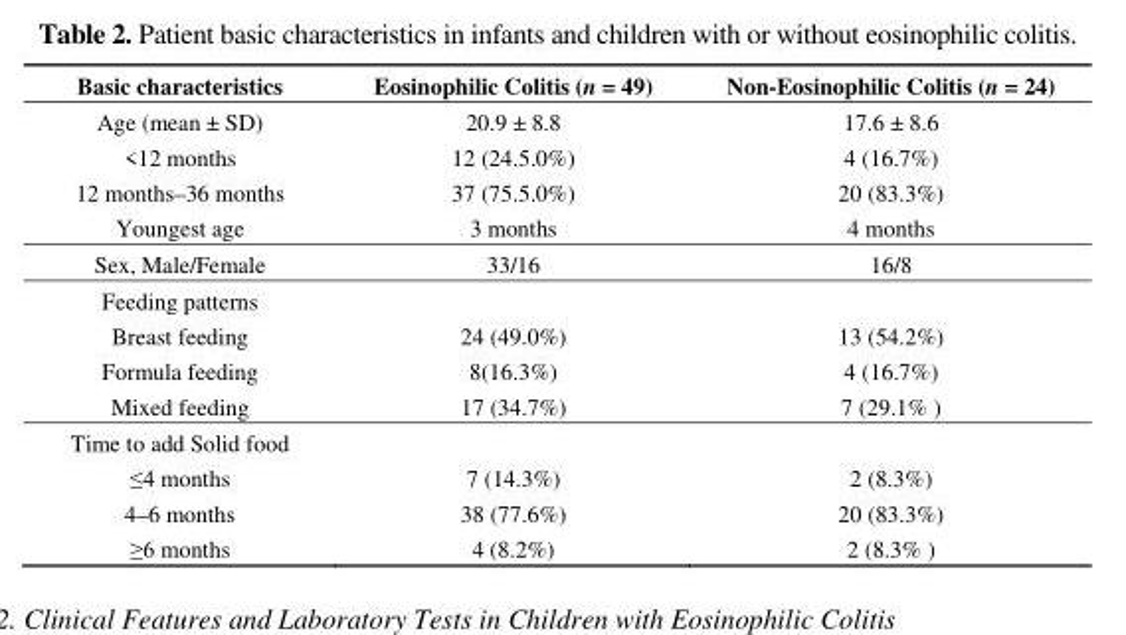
<table><thead><tr><td>Basic characteristics</td><td>Eosinophilic Colitis (n = 49)</td><td>Non-Eosinophilic Colitis (n = 24)</td></tr></thead><tbody><tr><td>Age (mean ± SD)</td><td>20.9 ± 8.8</td><td>17.6 ± 8.6</td></tr><tr><td>&lt;12 months</td><td>12 (24.5.0%)</td><td>4 (16.7%)</td></tr><tr><td>12 months–36 months</td><td>37 (75.5.0%)</td><td>20 (83.3%)</td></tr><tr><td>Youngest age</td><td>3 months</td><td>4 months</td></tr><tr><td>Sex, Male/Female</td><td>33/16</td><td>16/8</td></tr><tr><td colspan="3">Feeding patterns</td></tr><tr><td>Breast feeding</td><td>24 (49.0%)</td><td>13 (54.2%)</td></tr><tr><td>Formula feeding</td><td>8(16.3%)</td><td>4 (16.7%)</td></tr><tr><td>Mixed feeding</td><td>17 (34.7%)</td><td>7 (29.1% )</td></tr><tr><td colspan="3">Time to add Solid food</td></tr><tr><td>≤4 months</td><td>7 (14.3%)</td><td>2 (8.3%)</td></tr><tr><td>4–6 months</td><td>38 (77.6%)</td><td>20 (83.3%)</td></tr><tr><td>≥6 months</td><td>4 (8.2%)</td><td>2 (8.3% )</td></tr></tbody></table>